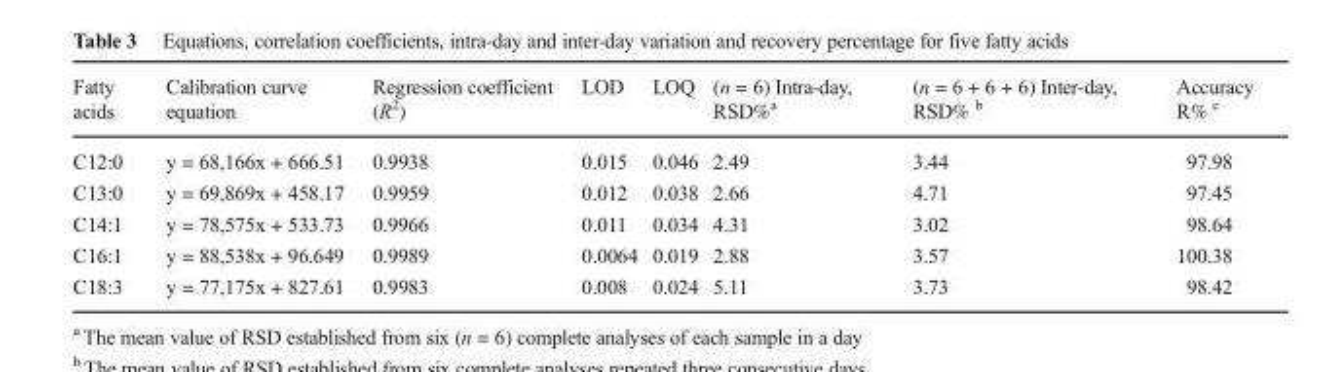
<table><thead><tr><td>Fatty acids</td><td>Calibration curve equation</td><td>Regression coefficient (R<sup>2</sup>)</td><td>LOD</td><td>LOQ</td><td>(n = 6) Intra-day, RSD%<sup>a</sup></td><td>(n = 6 + 6 + 6) Inter-day, RSD% <sup>b</sup></td><td>Accuracy R% <sup>c</sup></td></tr></thead><tbody><tr><td>C12:0</td><td>y = 68,166x + 666.51</td><td>0.9938</td><td>0.015</td><td>0.046</td><td>2.49</td><td>3.44</td><td>97.98</td></tr><tr><td>C13:0</td><td>y = 69,869x + 458.17</td><td>0.9959</td><td>0.012</td><td>0.038</td><td>2.66</td><td>4.71</td><td>97.45</td></tr><tr><td>C14:1</td><td>y = 78,575x + 533.73</td><td>0.9966</td><td>0.011</td><td>0.034</td><td>4.31</td><td>3.02</td><td>98.64</td></tr><tr><td>C16:1</td><td>y = 88,538x + 96.649</td><td>0.9989</td><td>0.0064</td><td>0.019</td><td>2.88</td><td>3.57</td><td>100.38</td></tr><tr><td>C18:3</td><td>y = 77,175x + 827.61</td><td>0.9983</td><td>0.008</td><td>0.024</td><td>5.11</td><td>3.73</td><td>98.42</td></tr></tbody></table>